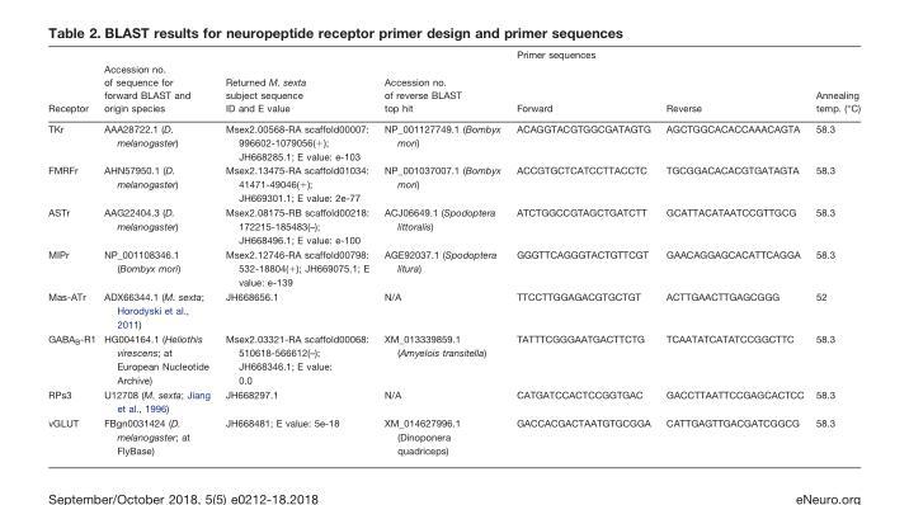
<table><thead><tr><td rowspan="2">Receptor</td><td rowspan="2">Accession no. of sequence for forward BLAST and origin species</td><td rowspan="2">Returned M. sexta subject sequence ID and E value</td><td rowspan="2">Accession no. of reverse BLAST top hit</td><td colspan="2">Primer sequences</td><td rowspan="2">Annealing temp. (°C)</td></tr><tr><td>Forward</td><td>Reverse</td></tr></thead><tbody><tr><td>TKr</td><td>AAA28722.1 (D. melanogaster)</td><td>Msex2.00568-RA scaffold00007: 996602-1079056(+); JH668285.1; E value: e-103</td><td>NP_001127749.1 (Bombyx mori)</td><td>ACAGGTACGTGGCGATAGTG</td><td>AGCTGGCACACCAAACAGTA</td><td>58.3</td></tr><tr><td>FMRFr</td><td>AHN57950.1 (D. melanogaster)</td><td>Msex2.13475-RA scaffold01034: 41471-49046(+); JH669301.1; E value: 2e-77</td><td>NP_001037007.1 (Bombyx mori)</td><td>ACCGTGCTCATCCTTACCTC</td><td>TGCGGACACACGTGATAGTA</td><td>58.3</td></tr><tr><td>ASTr</td><td>AAG22404.3 (D. melanogaster)</td><td>Msex2.08175-RB scaffold00218: 172215-185483(–); JH668496.1; E value: e-100</td><td>ACJ06649.1 (Spodoptera littoralis)</td><td>ATCTGGCCGTAGCTGATCTT</td><td>GCATTACATAATCCGTTGCG</td><td>58.3</td></tr><tr><td>MIPr</td><td>NP_001108346.1 (Bombyx mori)</td><td>Msex2.12746-RA scaffold00798: 532-18804(+); JH669075.1; E value: e-139</td><td>AGE92037.1 (Spodoptera litura)</td><td>GGGTTCAGGGTACTGTTCGT</td><td>GAACAGGAGCACATTCAGGA</td><td>58.3</td></tr><tr><td>Mas-ATr</td><td>ADX66344.1 (M. sexta; Horodyski et al., 2011)</td><td>JH668656.1</td><td>N/A</td><td>TTCCTTGGAGACGTGCTGT</td><td>ACTTGAACTTGAGCGGG</td><td>52</td></tr><tr><td>GABA<sub>B</sub>-R1</td><td>HG004164.1 (Heliothis virescens; at European Nucleotide Archive)</td><td>Msex2.03321-RA scaffold00068: 510618-566612(–); JH668346.1; E value: 0.0</td><td>XM_013339859.1 (Amyelois transitella)</td><td>TATTTCGGGAATGACTTCTG</td><td>TCAATATCATATCCGGCTTC</td><td>58.3</td></tr><tr><td>RPs3</td><td>U12708 (M. sexta; Jiang et al., 1996)</td><td>JH668297.1</td><td>N/A</td><td>CATGATCCACTCCGGTGAC</td><td>GACCTTAATTCCGAGCACTCC</td><td>58.3</td></tr><tr><td>vGLUT</td><td>FBgn0031424 (D. melanogaster; at FlyBase)</td><td>JH668481; E value: 5e-18</td><td>XM_014627996.1 (Dinoponera quadriceps)</td><td>GACCACGACTAATGTGCGGA</td><td>CATTGAGTTGACGATCGGCG</td><td>58.3</td></tr></tbody></table>